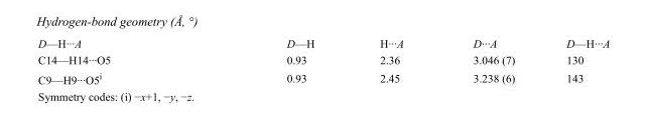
<table><tbody><tr><td>D—H···A</td><td>D—H</td><td>H···A</td><td>D···A</td><td>D—H···A</td></tr><tr><td>C14—H14···O5</td><td>0.93</td><td>2.36</td><td>3.046 (7)</td><td>130</td></tr><tr><td>C9—H9···O5<sup>i</sup></td><td>0.93</td><td>2.45</td><td>3.238 (6)</td><td>143</td></tr></tbody></table>